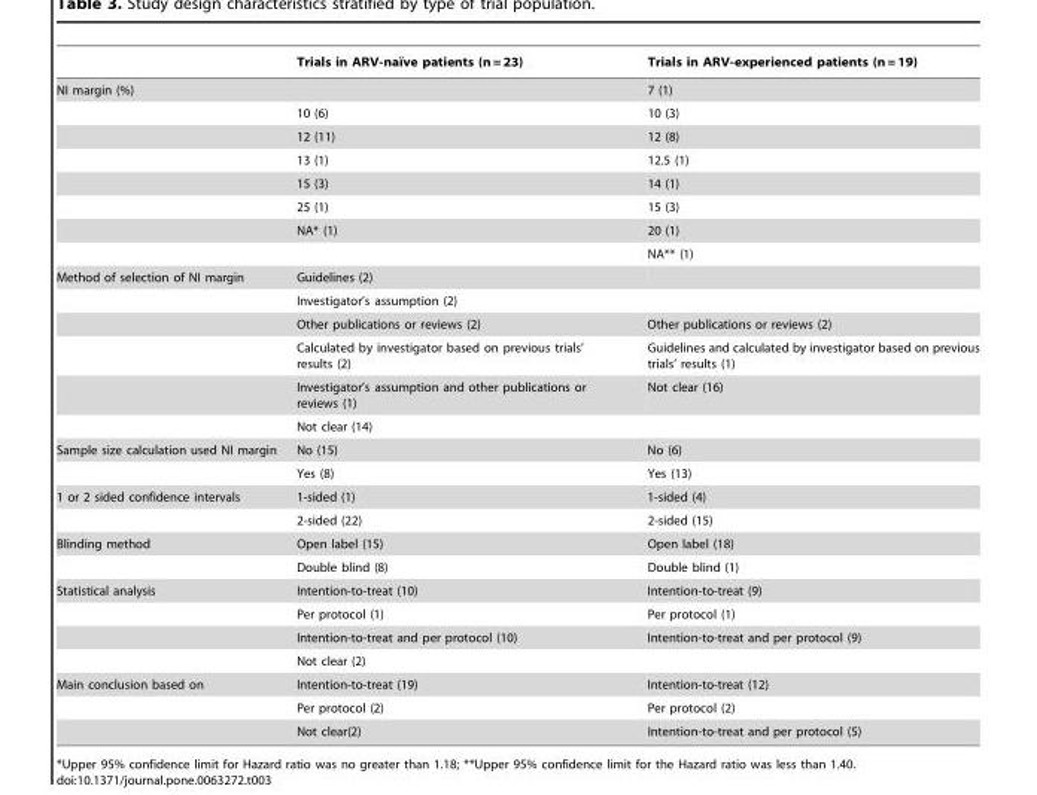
<table><thead><tr><td></td><td>Trials in ARV-naı¨ve patients (n = 23)</td><td>Trials in ARV-experienced patients (n = 19)</td></tr></thead><tbody><tr><td rowspan="8">NI margin (%)</td><td></td><td>7 (1)</td></tr><tr><td>10 (6)</td><td>10 (3)</td></tr><tr><td>12 (11)</td><td>12 (8)</td></tr><tr><td>13 (1)</td><td>12.5 (1)</td></tr><tr><td>15 (3)</td><td>14 (1)</td></tr><tr><td>25 (1)</td><td>15 (3)</td></tr><tr><td>NA* (1)</td><td>20 (1)</td></tr><tr><td></td><td>NA** (1)</td></tr><tr><td rowspan="6">Method of selection of NI margin</td><td>Guidelines (2)</td><td></td></tr><tr><td>Investigator’s assumption (2)</td><td></td></tr><tr><td>Other publications or reviews (2)</td><td>Other publications or reviews (2)</td></tr><tr><td>Calculated by investigator based on previous trials’ results (2)</td><td>Guidelines and calculated by investigator based on previous trials’ results (1)</td></tr><tr><td>Investigator’s assumption and other publications or reviews (1)</td><td>Not clear (16)</td></tr><tr><td>Not clear (14)</td><td></td></tr><tr><td rowspan="2">Sample size calculation used NI margin</td><td>No (15)</td><td>No (6)</td></tr><tr><td>Yes (8)</td><td>Yes (13)</td></tr><tr><td rowspan="2">1 or 2 sided confidence intervals</td><td>1-sided (1)</td><td>1-sided (4)</td></tr><tr><td>2-sided (22)</td><td>2-sided (15)</td></tr><tr><td rowspan="2">Blinding method</td><td>Open label (15)</td><td>Open label (18)</td></tr><tr><td>Double blind (8)</td><td>Double blind (1)</td></tr><tr><td rowspan="4">Statistical analysis</td><td>Intention-to-treat (10)</td><td>Intention-to-treat (9)</td></tr><tr><td>Per protocol (1)</td><td>Per protocol (1)</td></tr><tr><td>Intention-to-treat and per protocol (10)</td><td>Intention-to-treat and per protocol (9)</td></tr><tr><td>Not clear (2)</td><td></td></tr><tr><td rowspan="3">Main conclusion based on</td><td>Intention-to-treat (19)</td><td>Intention-to-treat (12)</td></tr><tr><td>Per protocol (2)</td><td>Per protocol (2)</td></tr><tr><td>Not clear(2)</td><td>Intention-to-treat and per protocol (5)</td></tr></tbody></table>